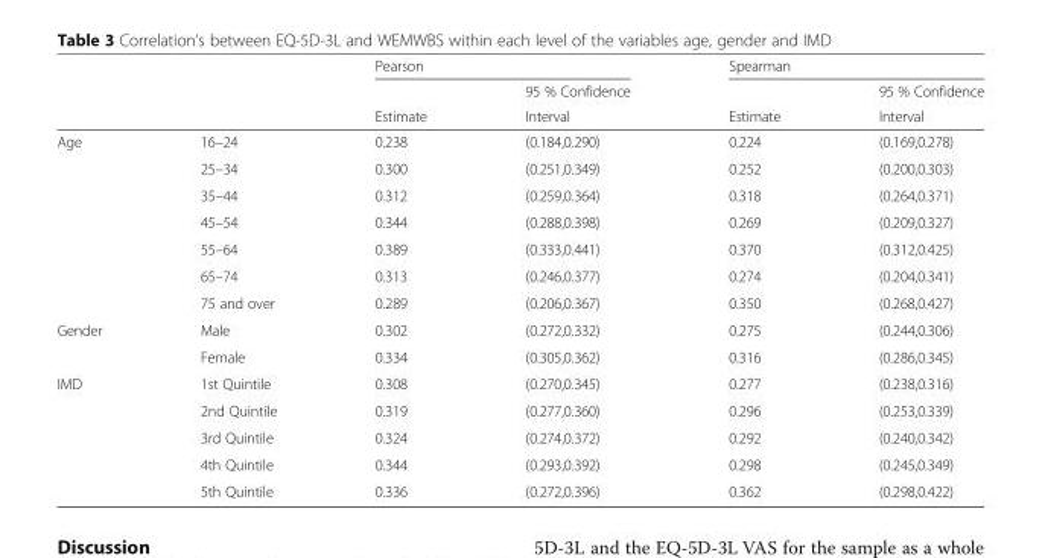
<table><thead><tr><td rowspan="3"></td><td rowspan="3"></td><td colspan="2">Pearson</td><td colspan="2">Spearman</td></tr><tr><td rowspan="2">Estimate</td><td rowspan="2">95 % Confidence Interval</td><td rowspan="2">Estimate</td><td rowspan="2">95 % Confidence Interval</td></tr><tr></tr></thead><tbody><tr><td rowspan="7">Age</td><td>16–24</td><td>0.238</td><td>(0.184,0.290)</td><td>0.224</td><td>(0.169,0.278)</td></tr><tr><td>25–34</td><td>0.300</td><td>(0.251,0.349)</td><td>0.252</td><td>(0.200,0.303)</td></tr><tr><td>35–44</td><td>0.312</td><td>(0.259,0.364)</td><td>0.318</td><td>(0.264,0.371)</td></tr><tr><td>45–54</td><td>0.344</td><td>(0.288,0.398)</td><td>0.269</td><td>(0.209,0.327)</td></tr><tr><td>55–64</td><td>0.389</td><td>(0.333,0.441)</td><td>0.370</td><td>(0.312,0.425)</td></tr><tr><td>65–74</td><td>0.313</td><td>(0.246,0.377)</td><td>0.274</td><td>(0.204,0.341)</td></tr><tr><td>75 and over</td><td>0.289</td><td>(0.206,0.367)</td><td>0.350</td><td>(0.268,0.427)</td></tr><tr><td rowspan="2">Gender</td><td>Male</td><td>0.302</td><td>(0.272,0.332)</td><td>0.275</td><td>(0.244,0.306)</td></tr><tr><td>Female</td><td>0.334</td><td>(0.305,0.362)</td><td>0.316</td><td>(0.286,0.345)</td></tr><tr><td rowspan="5">IMD</td><td>1st Quintile</td><td>0.308</td><td>(0.270,0.345)</td><td>0.277</td><td>(0.238,0.316)</td></tr><tr><td>2nd Quintile</td><td>0.319</td><td>(0.277,0.360)</td><td>0.296</td><td>(0.253,0.339)</td></tr><tr><td>3rd Quintile</td><td>0.324</td><td>(0.274,0.372)</td><td>0.292</td><td>(0.240,0.342)</td></tr><tr><td>4th Quintile</td><td>0.344</td><td>(0.293,0.392)</td><td>0.298</td><td>(0.245,0.349)</td></tr><tr><td>5th Quintile</td><td>0.336</td><td>(0.272,0.396)</td><td>0.362</td><td>(0.298,0.422)</td></tr></tbody></table>